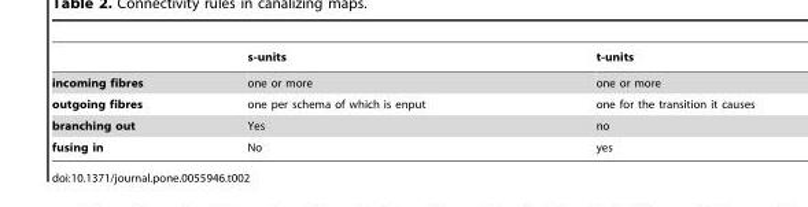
<table><thead><tr><td></td><td>s-units</td><td>t-units</td></tr></thead><tbody><tr><td>incoming fibres</td><td>one or more</td><td>one or more</td></tr><tr><td>outgoing fibres</td><td>one per schema of which is enput</td><td>one for the transition it causes</td></tr><tr><td>branching out</td><td>Yes</td><td>no</td></tr><tr><td>fusing in</td><td>No</td><td>yes</td></tr></tbody></table>